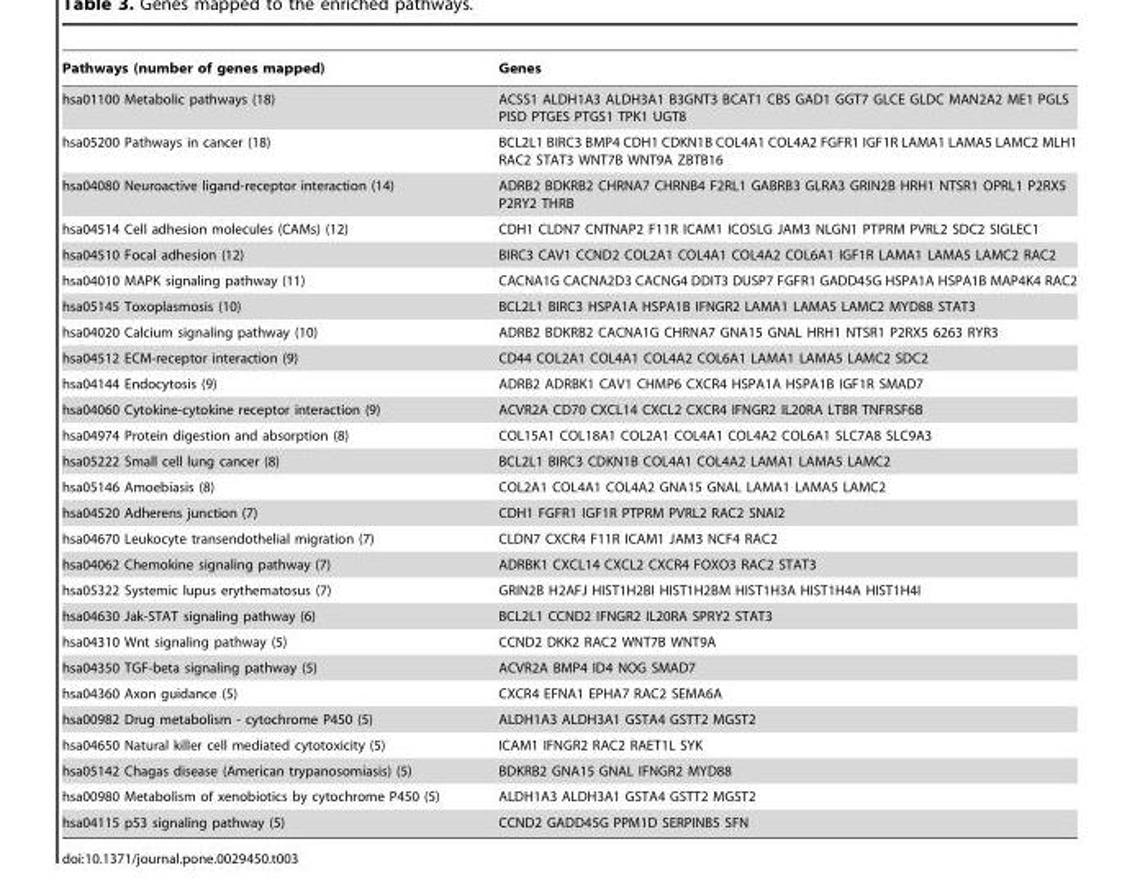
<table><thead><tr><td>Pathways (number of genes mapped)</td><td>Genes</td></tr></thead><tbody><tr><td>hsa01100 Metabolic pathways (18)</td><td>ACSS1 ALDH1A3 ALDH3A1 B3GNT3 BCAT1 CBS GAD1 GGT7 GLCE GLDC MAN2A2 ME1 PGLS PISD PTGES PTGS1 TPK1 UGT8</td></tr><tr><td>hsa05200 Pathways in cancer (18)</td><td>BCL2L1 BIRC3 BMP4 CDH1 CDKN1B COL4A1 COL4A2 FGFR1 IGF1R LAMA1 LAMA5 LAMC2 MLH1 RAC2 STAT3 WNT7B WNT9A ZBTB16</td></tr><tr><td>hsa04080 Neuroactive ligand-receptor interaction (14)</td><td>ADRB2 BDKRB2 CHRNA7 CHRNB4 F2RL1 GABRB3 GLRA3 GRIN2B HRH1 NTSR1 OPRL1 P2RX5 P2RY2 THRB</td></tr><tr><td>hsa04514 Cell adhesion molecules (CAMs) (12)</td><td>CDH1 CLDN7 CNTNAP2 F11R ICAM1 ICOSLG JAM3 NLGN1 PTPRM PVRL2 SDC2 SIGLEC1</td></tr><tr><td>hsa04510 Focal adhesion (12)</td><td>BIRC3 CAV1 CCND2 COL2A1 COL4A1 COL4A2 COL6A1 IGF1R LAMA1 LAMA5 LAMC2 RAC2</td></tr><tr><td>hsa04010 MAPK signaling pathway (11)</td><td>CACNA1G CACNA2D3 CACNG4 DDIT3 DUSP7 FGFR1 GADD45G HSPA1A HSPA1B MAP4K4 RAC2</td></tr><tr><td>hsa05145 Toxoplasmosis (10)</td><td>BCL2L1 BIRC3 HSPA1A HSPA1B IFNGR2 LAMA1 LAMA5 LAMC2 MYD88 STAT3</td></tr><tr><td>hsa04020 Calcium signaling pathway (10)</td><td>ADRB2 BDKRB2 CACNA1G CHRNA7 GNA15 GNAL HRH1 NTSR1 P2RX5 6263 RYR3</td></tr><tr><td>hsa04512 ECM-receptor interaction (9)</td><td>CD44 COL2A1 COL4A1 COL4A2 COL6A1 LAMA1 LAMA5 LAMC2 SDC2</td></tr><tr><td>hsa04144 Endocytosis (9)</td><td>ADRB2 ADRBK1 CAV1 CHMP6 CXCR4 HSPA1A HSPA1B IGF1R SMAD7</td></tr><tr><td>hsa04060 Cytokine-cytokine receptor interaction (9)</td><td>ACVR2A CD70 CXCL14 CXCL2 CXCR4 IFNGR2 IL20RA LTBR TNFRSF6B</td></tr><tr><td>hsa04974 Protein digestion and absorption (8)</td><td>COL15A1 COL18A1 COL2A1 COL4A1 COL4A2 COL6A1 SLC7A8 SLC9A3</td></tr><tr><td>hsa05222 Small cell lung cancer (8)</td><td>BCL2L1 BIRC3 CDKN1B COL4A1 COL4A2 LAMA1 LAMA5 LAMC2</td></tr><tr><td>hsa05146 Amoebiasis (8)</td><td>COL2A1 COL4A1 COL4A2 GNA15 GNAL LAMA1 LAMA5 LAMC2</td></tr><tr><td>hsa04520 Adherens junction (7)</td><td>CDH1 FGFR1 IGF1R PTPRM PVRL2 RAC2 SNAI2</td></tr><tr><td>hsa04670 Leukocyte transendothelial migration (7)</td><td>CLDN7 CXCR4 F11R ICAM1 JAM3 NCF4 RAC2</td></tr><tr><td>hsa04062 Chemokine signaling pathway (7)</td><td>ADRBK1 CXCL14 CXCL2 CXCR4 FOXO3 RAC2 STAT3</td></tr><tr><td>hsa05322 Systemic lupus erythematosus (7)</td><td>GRIN2B H2AFJ HIST1H2BI HIST1H2BM HIST1H3A HIST1H4A HIST1H4I</td></tr><tr><td>hsa04630 Jak-STAT signaling pathway (6)</td><td>BCL2L1 CCND2 IFNGR2 IL20RA SPRY2 STAT3</td></tr><tr><td>hsa04310 Wnt signaling pathway (5)</td><td>CCND2 DKK2 RAC2 WNT7B WNT9A</td></tr><tr><td>hsa04350 TGF-beta signaling pathway (5)</td><td>ACVR2A BMP4 ID4 NOG SMAD7</td></tr><tr><td>hsa04360 Axon guidance (5)</td><td>CXCR4 EFNA1 EPHA7 RAC2 SEMA6A</td></tr><tr><td>hsa00982 Drug metabolism - cytochrome P450 (5)</td><td>ALDH1A3 ALDH3A1 GSTA4 GSTT2 MGST2</td></tr><tr><td>hsa04650 Natural killer cell mediated cytotoxicity (5)</td><td>ICAM1 IFNGR2 RAC2 RAET1L SYK</td></tr><tr><td>hsa05142 Chagas disease (American trypanosomiasis) (5)</td><td>BDKRB2 GNA15 GNAL IFNGR2 MYD88</td></tr><tr><td>hsa00980 Metabolism of xenobiotics by cytochrome P450 (5)</td><td>ALDH1A3 ALDH3A1 GSTA4 GSTT2 MGST2</td></tr><tr><td>hsa04115 p53 signaling pathway (5)</td><td>CCND2 GADD45G PPM1D SERPINB5 SFN</td></tr></tbody></table>